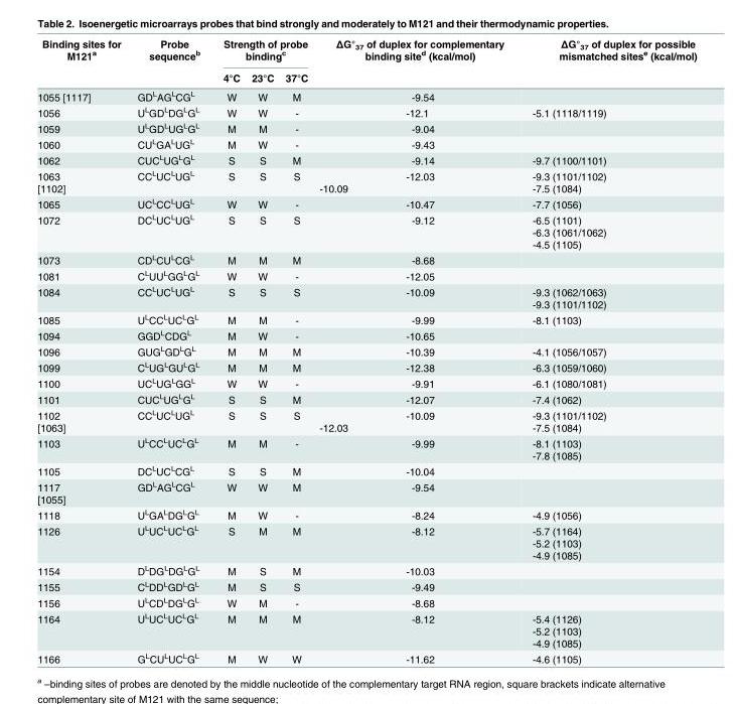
<table><thead><tr><td rowspan="2">Binding sites for M121<sup>a</sup></td><td rowspan="2">Probe sequence<sup>b</sup></td><td colspan="3">Strength of probe binding<sup>c</sup></td><td rowspan="2">ΔG°<sub>37</sub> of duplex for complementary binding site<sup>d</sup> (kcal/mol)</td><td rowspan="2">ΔG°<sub>37</sub> of duplex for possible mismatched sites<sup>e</sup> (kcal/mol)</td></tr><tr><td>4°C</td><td>23°C</td><td>37°C</td></tr></thead><tbody><tr><td>1055 [1117]</td><td>GD<sup>L</sup>AG<sup>L</sup>CG<sup>L</sup></td><td>W</td><td>W</td><td>M</td><td>-9.54</td><td></td></tr><tr><td>1056</td><td>U<sup>L</sup>GD<sup>L</sup>DG<sup>L</sup>G<sup>L</sup></td><td>W</td><td>W</td><td>-</td><td>-12.1</td><td>-5.1 (1118/1119)</td></tr><tr><td>1059</td><td>U<sup>L</sup>GD<sup>L</sup>UG<sup>L</sup>G<sup>L</sup></td><td>M</td><td>M</td><td>-</td><td>-9.04</td><td></td></tr><tr><td>1060</td><td>CU<sup>L</sup>GA<sup>L</sup>UG<sup>L</sup></td><td>M</td><td>W</td><td>-</td><td>-9.43</td><td></td></tr><tr><td>1062</td><td>CUC<sup>L</sup>UG<sup>L</sup>G<sup>L</sup></td><td>S</td><td>S</td><td>M</td><td>-9.14</td><td>-9.7 (1100/1101)</td></tr><tr><td>1063 [1102]</td><td>CC<sup>L</sup>UC<sup>L</sup>UG<sup>L</sup></td><td>S</td><td>S</td><td>S</td><td>-12.03 -10.09</td><td>-9.3 (1101/1102) -7.5 (1084)</td></tr><tr><td>1065</td><td>UC<sup>L</sup>CC<sup>L</sup>UG<sup>L</sup></td><td>W</td><td>W</td><td>-</td><td>-10.47</td><td>-7.7 (1056)</td></tr><tr><td>1072</td><td>DC<sup>L</sup>UC<sup>L</sup>UG<sup>L</sup></td><td>S</td><td>S</td><td>S</td><td>-9.12</td><td>-6.5 (1101) -6.3 (1061/1062) -4.5 (1105)</td></tr><tr><td>1073</td><td>CD<sup>L</sup>CU<sup>L</sup>CG<sup>L</sup></td><td>M</td><td>M</td><td>M</td><td>-8.68</td><td></td></tr><tr><td>1081</td><td>C<sup>L</sup>UU<sup>L</sup>GG<sup>L</sup>G<sup>L</sup></td><td>W</td><td>W</td><td>-</td><td>-12.05</td><td></td></tr><tr><td>1084</td><td>CC<sup>L</sup>UC<sup>L</sup>UG<sup>L</sup></td><td>S</td><td>S</td><td>S</td><td>-10.09</td><td>-9.3 (1062/1063) -9.3 (1101/1102)</td></tr><tr><td>1085</td><td>U<sup>L</sup>CC<sup>L</sup>UC<sup>L</sup>G<sup>L</sup></td><td>M</td><td>M</td><td>-</td><td>-9.99</td><td>-8.1 (1103)</td></tr><tr><td>1094</td><td>GGD<sup>L</sup>CDG<sup>L</sup></td><td>M</td><td>W</td><td>-</td><td>-10.65</td><td></td></tr><tr><td>1096</td><td>GUG<sup>L</sup>GD<sup>L</sup>G<sup>L</sup></td><td>M</td><td>M</td><td>M</td><td>-10.39</td><td>-4.1 (1056/1057)</td></tr><tr><td>1099</td><td>C<sup>L</sup>UG<sup>L</sup>GU<sup>L</sup>G<sup>L</sup></td><td>M</td><td>M</td><td>M</td><td>-12.38</td><td>-6.3 (1059/1060)</td></tr><tr><td>1100</td><td>UC<sup>L</sup>UG<sup>L</sup>GG<sup>L</sup></td><td>W</td><td>W</td><td>-</td><td>-9.91</td><td>-6.1 (1080/1081)</td></tr><tr><td>1101</td><td>CUC<sup>L</sup>UG<sup>L</sup>G<sup>L</sup></td><td>S</td><td>S</td><td>M</td><td>-12.07</td><td>-7.4 (1062)</td></tr><tr><td>1102 [1063]</td><td>CC<sup>L</sup>UC<sup>L</sup>UG<sup>L</sup></td><td>S</td><td>S</td><td>S</td><td>-10.09 -12.03</td><td>-9.3 (1101/1102) -7.5 (1084)</td></tr><tr><td>1103</td><td>U<sup>L</sup>CC<sup>L</sup>UC<sup>L</sup>G<sup>L</sup></td><td>M</td><td>M</td><td>-</td><td>-9.99</td><td>-8.1 (1103) -7.8 (1085)</td></tr><tr><td>1105</td><td>DC<sup>L</sup>UC<sup>L</sup>CG<sup>L</sup></td><td>S</td><td>S</td><td>M</td><td>-10.04</td><td></td></tr><tr><td>1117 [1055]</td><td>GD<sup>L</sup>AG<sup>L</sup>CG<sup>L</sup></td><td>W</td><td>W</td><td>M</td><td>-9.54</td><td></td></tr><tr><td>1118</td><td>U<sup>L</sup>GA<sup>L</sup>DG<sup>L</sup>G<sup>L</sup></td><td>M</td><td>W</td><td>-</td><td>-8.24</td><td>-4.9 (1056)</td></tr><tr><td>1126</td><td>U<sup>L</sup>UC<sup>L</sup>UC<sup>L</sup>G<sup>L</sup></td><td>S</td><td>M</td><td>M</td><td>-8.12</td><td>-5.7 (1164) -5.2 (1103) -4.9 (1085)</td></tr><tr><td>1154</td><td>D<sup>L</sup>DG<sup>L</sup>DG<sup>L</sup>G<sup>L</sup></td><td>M</td><td>S</td><td>M</td><td>-10.03</td><td></td></tr><tr><td>1155</td><td>C<sup>L</sup>DD<sup>L</sup>GD<sup>L</sup>G<sup>L</sup></td><td>M</td><td>S</td><td>S</td><td>-9.49</td><td></td></tr><tr><td>1156</td><td>U<sup>L</sup>CD<sup>L</sup>DG<sup>L</sup>G<sup>L</sup></td><td>W</td><td>M</td><td>-</td><td>-8.68</td><td></td></tr><tr><td>1164</td><td>U<sup>L</sup>UC<sup>L</sup>UC<sup>L</sup>G<sup>L</sup></td><td>M</td><td>M</td><td>M</td><td>-8.12</td><td>-5.4 (1126) -5.2 (1103) -4.9 (1085)</td></tr><tr><td>1166</td><td>G<sup>L</sup>CU<sup>L</sup>UC<sup>L</sup>G<sup>L</sup></td><td>M</td><td>W</td><td>W</td><td>-11.62</td><td>-4.6 (1105)</td></tr></tbody></table>